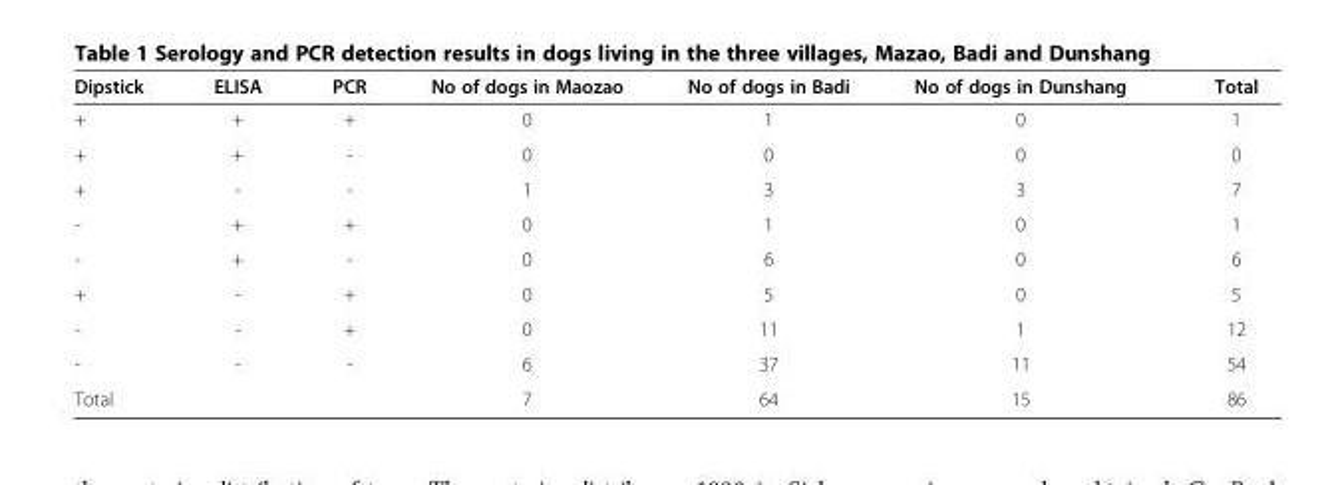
<table><thead><tr><td>Dipstick</td><td>ELISA</td><td>PCR</td><td>No of dogs in Maozao</td><td>No of dogs in Badi</td><td>No of dogs in Dunshang</td><td>Total</td></tr></thead><tbody><tr><td>+</td><td>+</td><td>+</td><td>0</td><td>1</td><td>0</td><td>1</td></tr><tr><td>+</td><td>+</td><td>-</td><td>0</td><td>0</td><td>0</td><td>0</td></tr><tr><td>+</td><td>-</td><td>-</td><td>1</td><td>3</td><td>3</td><td>7</td></tr><tr><td>-</td><td>+</td><td>+</td><td>0</td><td>1</td><td>0</td><td>1</td></tr><tr><td>-</td><td>+</td><td>-</td><td>0</td><td>6</td><td>0</td><td>6</td></tr><tr><td>+</td><td>-</td><td>+</td><td>0</td><td>5</td><td>0</td><td>5</td></tr><tr><td>-</td><td>-</td><td>+</td><td>0</td><td>11</td><td>1</td><td>12</td></tr><tr><td>-</td><td>-</td><td>-</td><td>6</td><td>37</td><td>11</td><td>54</td></tr><tr><td>Total</td><td></td><td></td><td>7</td><td>64</td><td>15</td><td>86</td></tr></tbody></table>